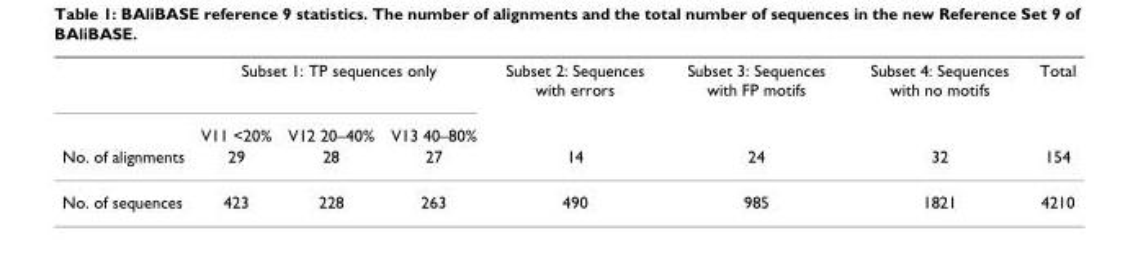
<table><thead><tr><td rowspan="3">No. of alignments</td><td colspan="3">Subset 1: TP sequences only</td><td rowspan="3">Subset 2: Sequences with errors 14</td><td rowspan="3">Subset 3: Sequences with FP motifs 24</td><td rowspan="3">Subset 4: Sequences with no motifs 32</td><td rowspan="3">Total 154</td></tr><tr><td rowspan="2">V11 &lt;20% 29</td><td rowspan="2">V12 20–40% 28</td><td rowspan="2">V13 40–80% 27</td></tr><tr></tr></thead><tbody><tr><td>No. of sequences</td><td>423</td><td>228</td><td>263</td><td>490</td><td>985</td><td>1821</td><td>4210</td></tr></tbody></table>